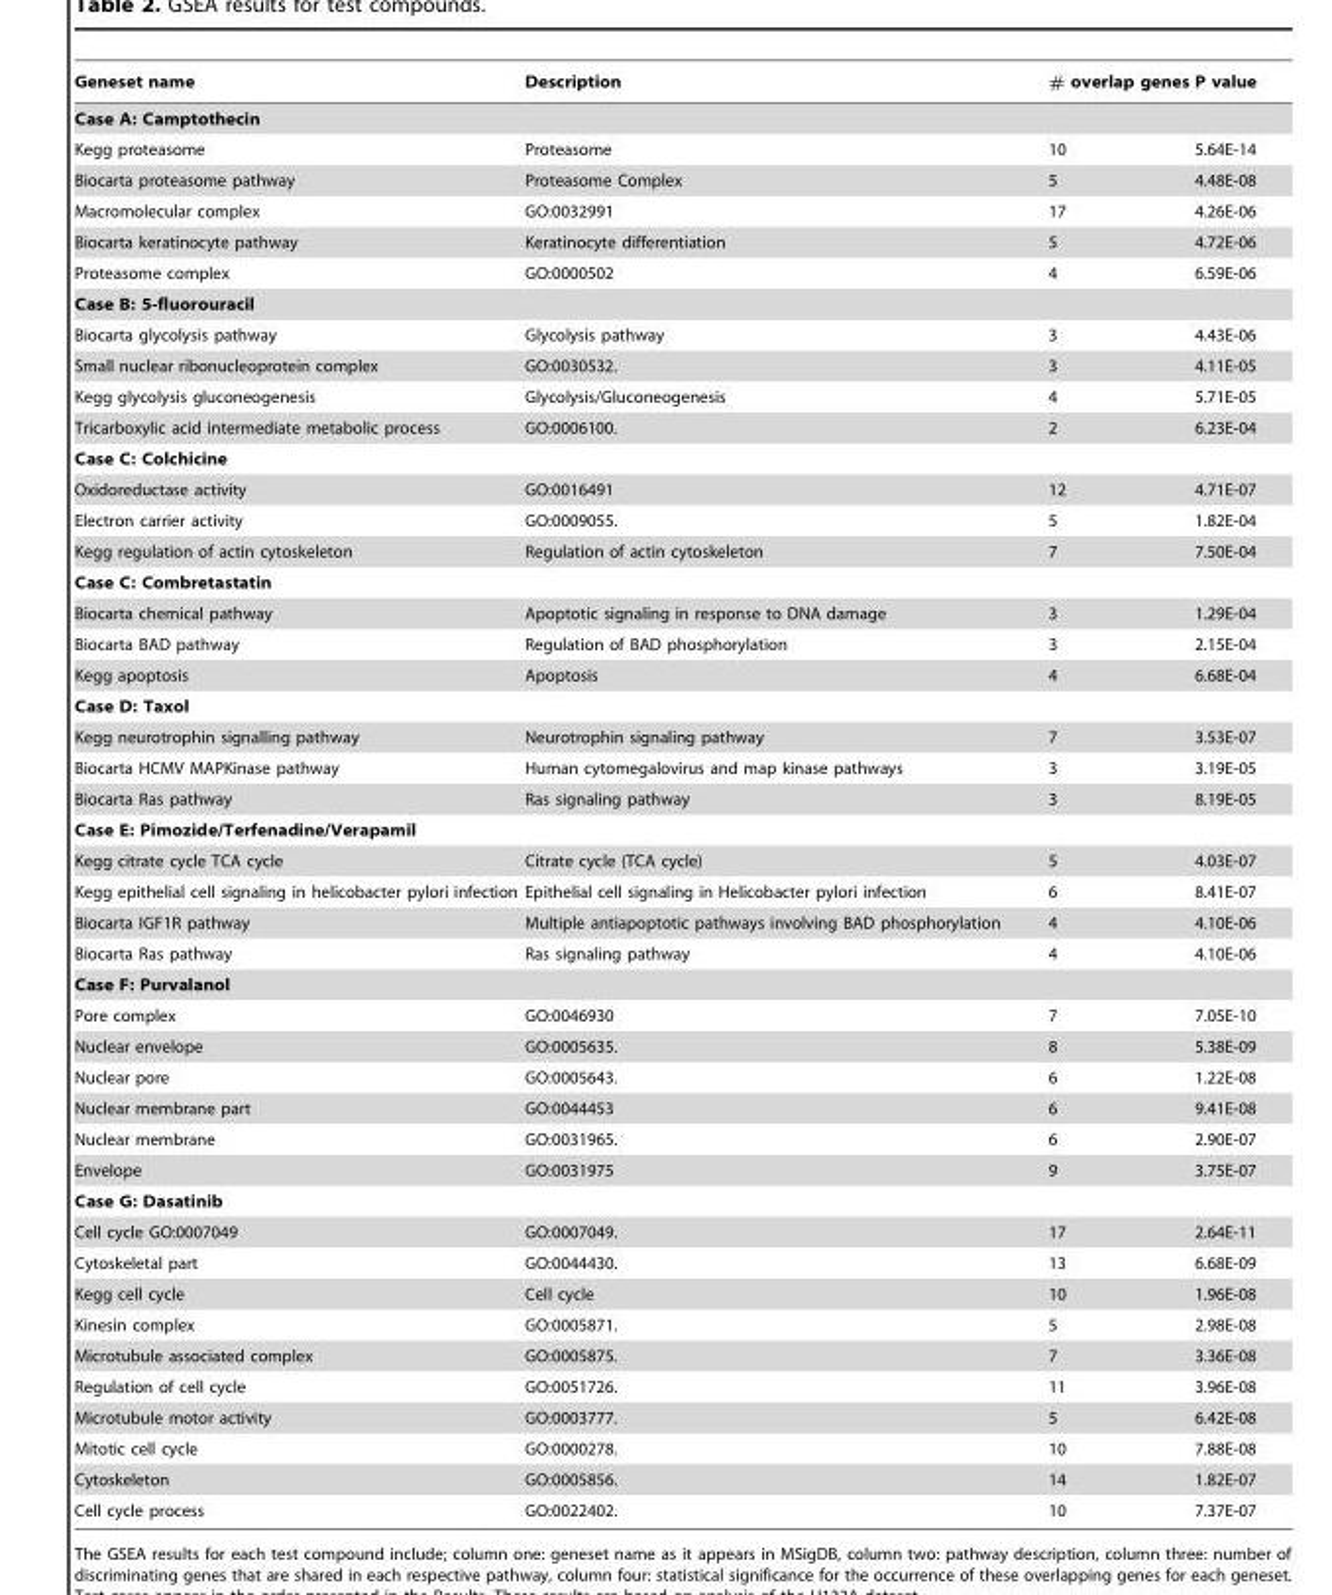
<table><thead><tr><td>Geneset name</td><td>Description</td><td># overlap genes</td><td>P value</td></tr></thead><tbody><tr><td colspan="4">Case A: Camptothecin</td></tr><tr><td>Kegg proteasome</td><td>Proteasome</td><td>10</td><td>5.64E-14</td></tr><tr><td>Biocarta proteasome pathway</td><td>Proteasome Complex</td><td>5</td><td>4.48E-08</td></tr><tr><td>Macromolecular complex</td><td>GO:0032991</td><td>17</td><td>4.26E-06</td></tr><tr><td>Biocarta keratinocyte pathway</td><td>Keratinocyte differentiation</td><td>5</td><td>4.72E-06</td></tr><tr><td>Proteasome complex</td><td>GO:0000502</td><td>4</td><td>6.59E-06</td></tr><tr><td colspan="4">Case B: 5-fluorouracil</td></tr><tr><td>Biocarta glycolysis pathway</td><td>Glycolysis pathway</td><td>3</td><td>4.43E-06</td></tr><tr><td>Small nuclear ribonucleoprotein complex</td><td>GO:0030532.</td><td>3</td><td>4.11E-05</td></tr><tr><td>Kegg glycolysis gluconeogenesis</td><td>Glycolysis/Gluconeogenesis</td><td>4</td><td>5.71E-05</td></tr><tr><td>Tricarboxylic acid intermediate metabolic process</td><td>GO:0006100.</td><td>2</td><td>6.23E-04</td></tr><tr><td colspan="4">Case C: Colchicine</td></tr><tr><td>Oxidoreductase activity</td><td>GO:0016491</td><td>12</td><td>4.71E-07</td></tr><tr><td>Electron carrier activity</td><td>GO:0009055.</td><td>5</td><td>1.82E-04</td></tr><tr><td>Kegg regulation of actin cytoskeleton</td><td>Regulation of actin cytoskeleton</td><td>7</td><td>7.50E-04</td></tr><tr><td colspan="4">Case C: Combretastatin</td></tr><tr><td>Biocarta chemical pathway</td><td>Apoptotic signaling in response to DNA damage</td><td>3</td><td>1.29E-04</td></tr><tr><td>Biocarta BAD pathway</td><td>Regulation of BAD phosphorylation</td><td>3</td><td>2.15E-04</td></tr><tr><td>Kegg apoptosis</td><td>Apoptosis</td><td>4</td><td>6.68E-04</td></tr><tr><td colspan="4">Case D: Taxol</td></tr><tr><td>Kegg neurotrophin signalling pathway</td><td>Neurotrophin signaling pathway</td><td>7</td><td>3.53E-07</td></tr><tr><td>Biocarta HCMV MAPKinase pathway</td><td>Human cytomegalovirus and map kinase pathways</td><td>3</td><td>3.19E-05</td></tr><tr><td>Biocarta Ras pathway</td><td>Ras signaling pathway</td><td>3</td><td>8.19E-05</td></tr><tr><td colspan="4">Case E: Pimozide/Terfenadine/Verapamil</td></tr><tr><td>Kegg citrate cycle TCA cycle</td><td>Citrate cycle (TCA cycle)</td><td>5</td><td>4.03E-07</td></tr><tr><td>Kegg epithelial cell signaling in helicobacter pylori infection</td><td>Epithelial cell signaling in Helicobacter pylori infection</td><td>6</td><td>8.41E-07</td></tr><tr><td>Biocarta IGF1R pathway</td><td>Multiple antiapoptotic pathways involving BAD phosphorylation</td><td>4</td><td>4.10E-06</td></tr><tr><td>Biocarta Ras pathway</td><td>Ras signaling pathway</td><td>4</td><td>4.10E-06</td></tr><tr><td colspan="4">Case F: Purvalanol</td></tr><tr><td>Pore complex</td><td>GO:0046930</td><td>7</td><td>7.05E-10</td></tr><tr><td>Nuclear envelope</td><td>GO:0005635.</td><td>8</td><td>5.38E-09</td></tr><tr><td>Nuclear pore</td><td>GO:0005643.</td><td>6</td><td>1.22E-08</td></tr><tr><td>Nuclear membrane part</td><td>GO:0044453</td><td>6</td><td>9.41E-08</td></tr><tr><td>Nuclear membrane</td><td>GO:0031965.</td><td>6</td><td>2.90E-07</td></tr><tr><td>Envelope</td><td>GO:0031975</td><td>9</td><td>3.75E-07</td></tr><tr><td colspan="4">Case G: Dasatinib</td></tr><tr><td>Cell cycle GO:0007049</td><td>GO:0007049.</td><td>17</td><td>2.64E-11</td></tr><tr><td>Cytoskeletal part</td><td>GO:0044430.</td><td>13</td><td>6.68E-09</td></tr><tr><td>Kegg cell cycle</td><td>Cell cycle</td><td>10</td><td>1.96E-08</td></tr><tr><td>Kinesin complex</td><td>GO:0005871.</td><td>5</td><td>2.98E-08</td></tr><tr><td>Microtubule associated complex</td><td>GO:0005875.</td><td>7</td><td>3.36E-08</td></tr><tr><td>Regulation of cell cycle</td><td>GO:0051726.</td><td>11</td><td>3.96E-08</td></tr><tr><td>Microtubule motor activity</td><td>GO:0003777.</td><td>5</td><td>6.42E-08</td></tr><tr><td>Mitotic cell cycle</td><td>GO:0000278.</td><td>10</td><td>7.88E-08</td></tr><tr><td>Cytoskeleton</td><td>GO:0005856.</td><td>14</td><td>1.82E-07</td></tr><tr><td>Cell cycle process</td><td>GO:0022402.</td><td>10</td><td>7.37E-07</td></tr></tbody></table>